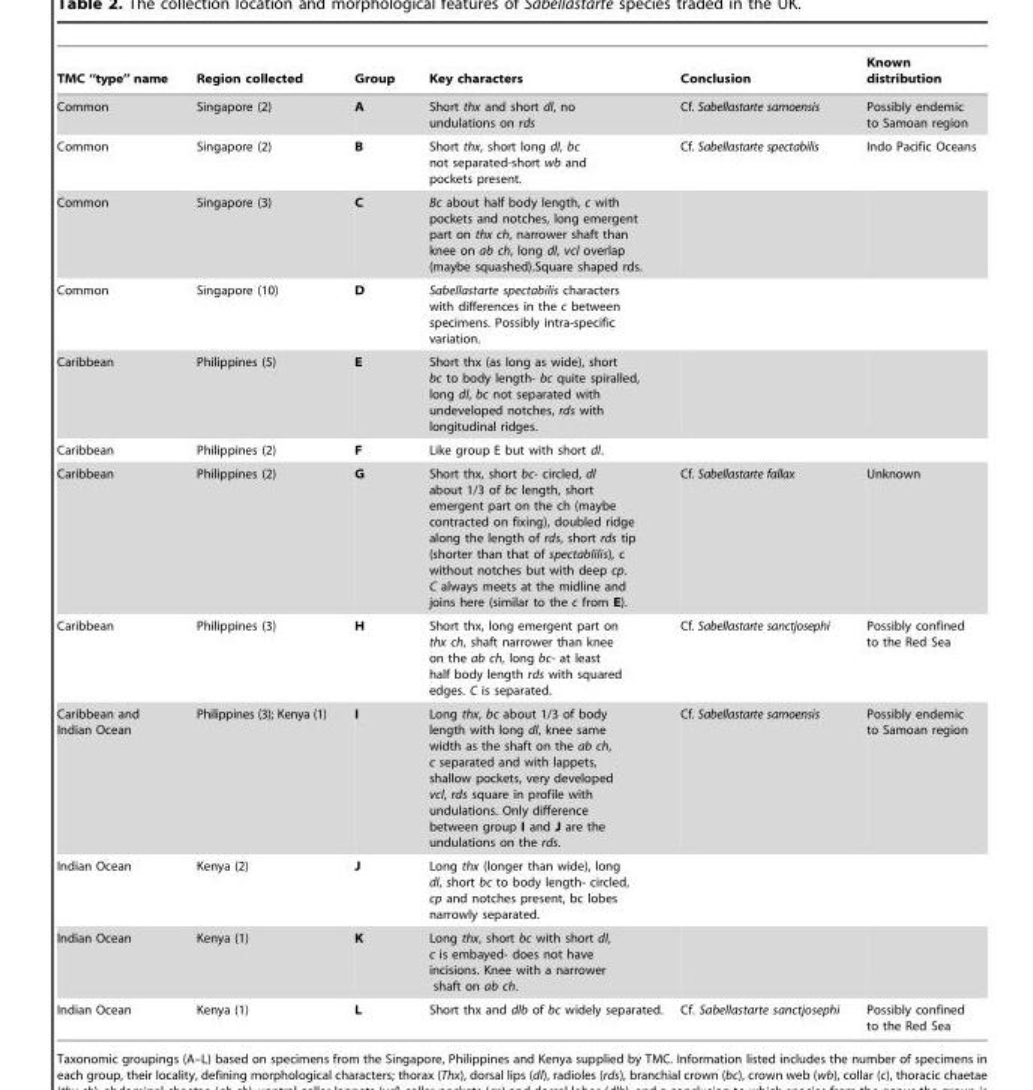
<table><thead><tr><td>TMC ‘‘type’’ name</td><td>Region collected</td><td>Group</td><td>Key characters</td><td>Conclusion</td><td>Known distribution</td></tr></thead><tbody><tr><td>Common</td><td>Singapore (2)</td><td>A</td><td>Short thx and short dl, no undulations on rds</td><td>Cf. Sabellastarte samoensis</td><td>Possibly endemic to Samoan region</td></tr><tr><td>Common</td><td>Singapore (2)</td><td>B</td><td>Short thx, short long dl, bc not separated-short wb and pockets present.</td><td>Cf. Sabellastarte spectabilis</td><td>Indo Pacific Oceans</td></tr><tr><td>Common</td><td>Singapore (3)</td><td>C</td><td>Bc about half body length, c with pockets and notches, long emergent part on thx ch, narrower shaft than knee on ab ch, long dl, vcl overlap (maybe squashed).Square shaped rds.</td><td></td><td></td></tr><tr><td>Common</td><td>Singapore (10)</td><td>D</td><td>Sabellastarte spectabilis characters with differences in the c between specimens. Possibly intra-specific variation.</td><td></td><td></td></tr><tr><td>Caribbean</td><td>Philippines (5)</td><td>E</td><td>Short thx (as long as wide), short bc to body length- bc quite spiralled, long dl, bc not separated with undeveloped notches, rds with longitudinal ridges.</td><td></td><td></td></tr><tr><td>Caribbean</td><td>Philippines (2)</td><td>F</td><td>Like group E but with short dl.</td><td></td><td></td></tr><tr><td>Caribbean</td><td>Philippines (2)</td><td>G</td><td>Short thx, short bc- circled, dl about 1/3 of bc length, short emergent part on the ch (maybe contracted on fixing), doubled ridge along the length of rds, short rds tip (shorter than that of spectablilis), c without notches but with deep cp. C always meets at the midline and joins here (similar to the c from E).</td><td>Cf. Sabellastarte fallax</td><td>Unknown</td></tr><tr><td>Caribbean</td><td>Philippines (3)</td><td>H</td><td>Short thx, long emergent part on thx ch, shaft narrower than knee on the ab ch, long bc- at least half body length rds with squared edges. C is separated.</td><td>Cf. Sabellastarte sanctjosephi</td><td>Possibly confined to the Red Sea</td></tr><tr><td>Caribbean and Indian Ocean</td><td>Philippines (3); Kenya (1)</td><td>I</td><td>Long thx, bc about 1/3 of body length with long dl, knee same width as the shaft on the ab ch, c separated and with lappets, shallow pockets, very developed vcl, rds square in profile with undulations. Only difference between group I and J are the undulations on the rds.</td><td>Cf. Sabellastarte samoensis</td><td>Possibly endemic to Samoan region</td></tr><tr><td>Indian Ocean</td><td>Kenya (2)</td><td>J</td><td>Long thx (longer than wide), long dl, short bc to body length- circled, cp and notches present, bc lobes narrowly separated.</td><td></td><td></td></tr><tr><td>Indian Ocean</td><td>Kenya (1)</td><td>K</td><td>Long thx, short bc with short dl, c is embayed- does not have incisions. Knee with a narrower shaft on ab ch.</td><td></td><td></td></tr><tr><td>Indian Ocean</td><td>Kenya (1)</td><td>L</td><td>Short thx and dlb of bc widely separated.</td><td>Cf. Sabellastarte sanctjosephi</td><td>Possibly confined to the Red Sea</td></tr></tbody></table>